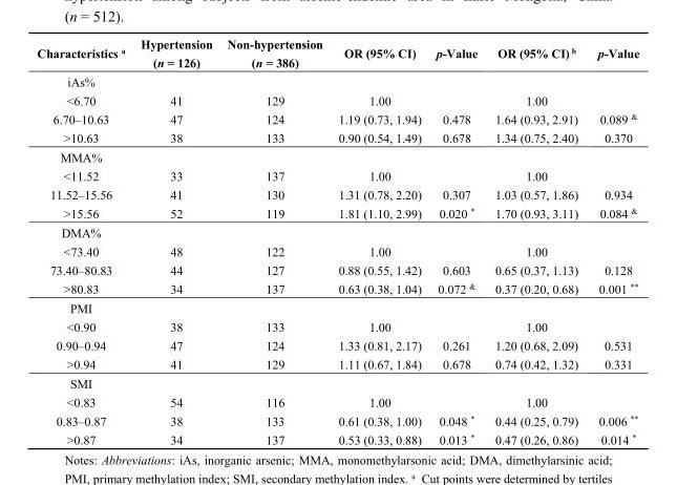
<table><thead><tr><td>Characteristics <sup>a</sup></td><td>Hypertension (n = 126)</td><td>Non-hypertension (n = 386)</td><td>OR (95% CI)</td><td>p-Value</td><td>OR (95% CI) <sup>b</sup></td><td>p-Value</td></tr></thead><tbody><tr><td colspan="7">iAs%</td></tr><tr><td>&lt;6.70</td><td>41</td><td>129</td><td>1.00</td><td></td><td>1.00</td><td></td></tr><tr><td>6.70–10.63</td><td>47</td><td>124</td><td>1.19 (0.73, 1.94)</td><td>0.478</td><td>1.64 (0.93, 2.91)</td><td>0.089 <sup>&amp;</sup></td></tr><tr><td>&gt;10.63</td><td>38</td><td>133</td><td>0.90 (0.54, 1.49)</td><td>0.678</td><td>1.34 (0.75, 2.40)</td><td>0.370</td></tr><tr><td colspan="7">MMA%</td></tr><tr><td>&lt;11.52</td><td>33</td><td>137</td><td>1.00</td><td></td><td>1.00</td><td></td></tr><tr><td>11.52–15.56</td><td>41</td><td>130</td><td>1.31 (0.78, 2.20)</td><td>0.307</td><td>1.03 (0.57, 1.86)</td><td>0.934</td></tr><tr><td>&gt;15.56</td><td>52</td><td>119</td><td>1.81 (1.10, 2.99)</td><td>0.020 *</td><td>1.70 (0.93, 3.11)</td><td>0.084 <sup>&amp;</sup></td></tr><tr><td colspan="7">DMA%</td></tr><tr><td>&lt;73.40</td><td>48</td><td>122</td><td>1.00</td><td></td><td>1.00</td><td></td></tr><tr><td>73.40–80.83</td><td>44</td><td>127</td><td>0.88 (0.55, 1.42)</td><td>0.603</td><td>0.65 (0.37, 1.13)</td><td>0.128</td></tr><tr><td>&gt;80.83</td><td>34</td><td>137</td><td>0.63 (0.38, 1.04)</td><td>0.072 <sup>&amp;</sup></td><td>0.37 (0.20, 0.68)</td><td>0.001 **</td></tr><tr><td colspan="7">PMI</td></tr><tr><td>&lt;0.90</td><td>38</td><td>133</td><td>1.00</td><td></td><td>1.00</td><td></td></tr><tr><td>0.90–0.94</td><td>47</td><td>124</td><td>1.33 (0.81, 2.17)</td><td>0.261</td><td>1.20 (0.68, 2.09)</td><td>0.531</td></tr><tr><td>&gt;0.94</td><td>41</td><td>129</td><td>1.11 (0.67, 1.84)</td><td>0.678</td><td>0.74 (0.42, 1.32)</td><td>0.331</td></tr><tr><td colspan="7">SMI</td></tr><tr><td>&lt;0.83</td><td>54</td><td>116</td><td>1.00</td><td></td><td>1.00</td><td></td></tr><tr><td>0.83–0.87</td><td>38</td><td>133</td><td>0.61 (0.38, 1.00)</td><td>0.048 *</td><td>0.44 (0.25, 0.79)</td><td>0.006 **</td></tr><tr><td>&gt;0.87</td><td>34</td><td>137</td><td>0.53 (0.33, 0.88)</td><td>0.013 *</td><td>0.47 (0.26, 0.86)</td><td>0.014 *</td></tr></tbody></table>